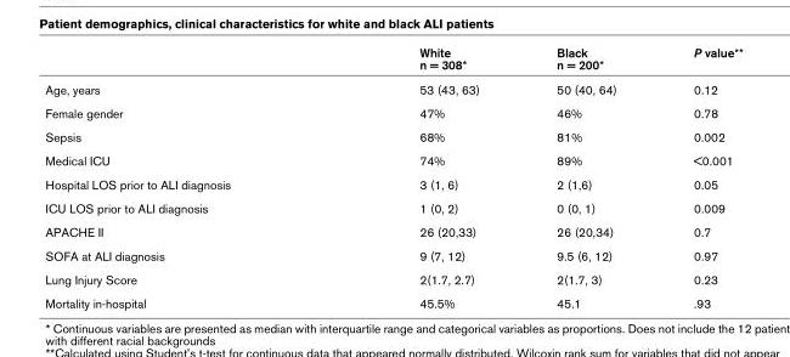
<table><thead><tr><td></td><td>White n = 308*</td><td>Black n = 200*</td><td>P value**</td></tr></thead><tbody><tr><td>Age, years</td><td>53 (43, 63)</td><td>50 (40, 64)</td><td>0.12</td></tr><tr><td>Female gender</td><td>47%</td><td>46%</td><td>0.78</td></tr><tr><td>Sepsis</td><td>68%</td><td>81%</td><td>0.002</td></tr><tr><td>Medical ICU</td><td>74%</td><td>89%</td><td>&lt;0.001</td></tr><tr><td>Hospital LOS prior to ALI diagnosis</td><td>3 (1, 6)</td><td>2 (1,6)</td><td>0.05</td></tr><tr><td>ICU LOS prior to ALI diagnosis</td><td>1 (0, 2)</td><td>0 (0, 1)</td><td>0.009</td></tr><tr><td>APACHE II</td><td>26 (20,33)</td><td>26 (20,34)</td><td>0.7</td></tr><tr><td>SOFA at ALI diagnosis</td><td>9 (7, 12)</td><td>9.5 (6, 12)</td><td>0.97</td></tr><tr><td>Lung Injury Score</td><td>2(1.7, 2.7)</td><td>2(1.7, 3)</td><td>0.23</td></tr><tr><td>Mortality in-hospital</td><td>45.5%</td><td>45.1</td><td>.93</td></tr></tbody></table>